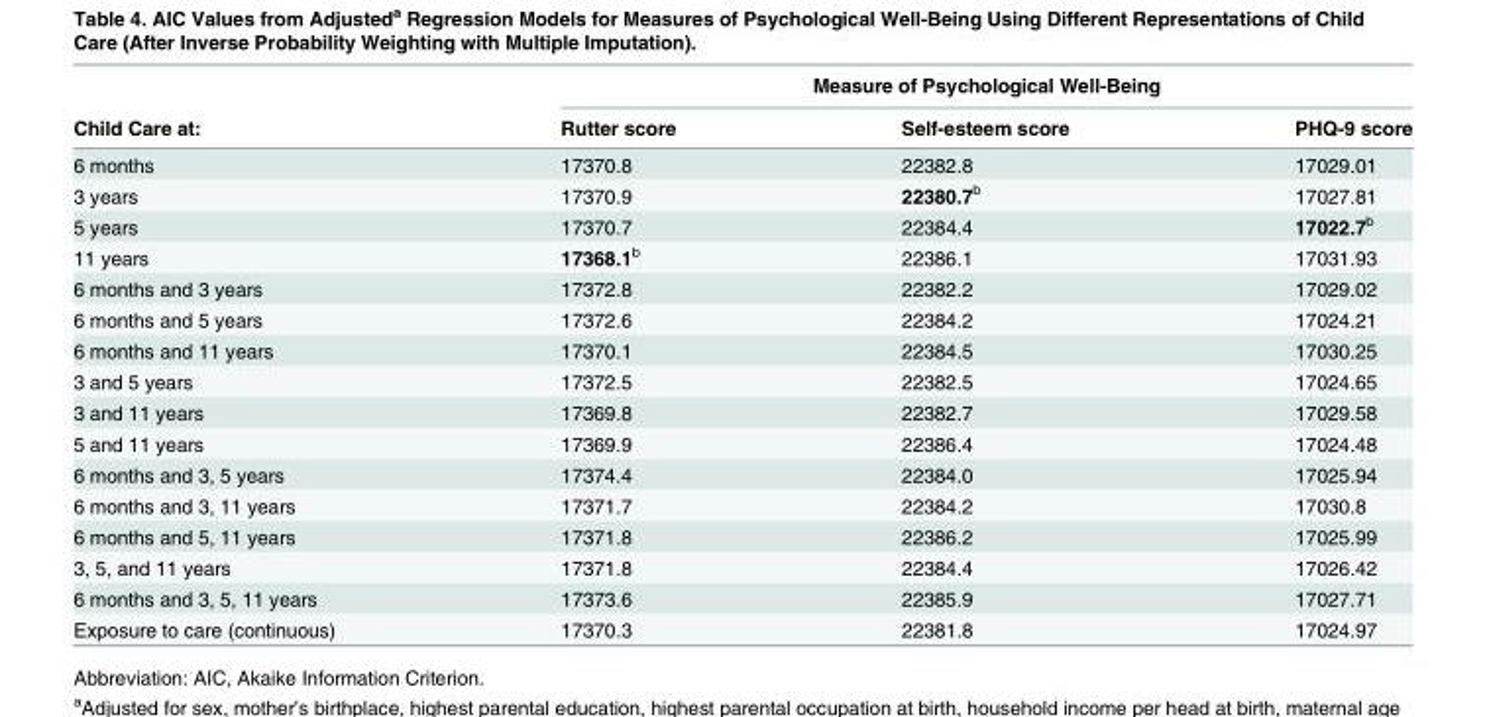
<table><thead><tr><td rowspan="2">Child Care at:</td><td colspan="3">Measure of Psychological Well-Being</td></tr><tr><td>Rutter score</td><td>Self-esteem score</td><td>PHQ-9 score</td></tr></thead><tbody><tr><td>6 months</td><td>17370.8</td><td>22382.8</td><td>17029.01</td></tr><tr><td>3 years</td><td>17370.9</td><td>22380.7<sup>b</sup></td><td>17027.81</td></tr><tr><td>5 years</td><td>17370.7</td><td>22384.4</td><td>17022.7<sup>b</sup></td></tr><tr><td>11 years</td><td>17368.1<sup>b</sup></td><td>22386.1</td><td>17031.93</td></tr><tr><td>6 months and 3 years</td><td>17372.8</td><td>22382.2</td><td>17029.02</td></tr><tr><td>6 months and 5 years</td><td>17372.6</td><td>22384.2</td><td>17024.21</td></tr><tr><td>6 months and 11 years</td><td>17370.1</td><td>22384.5</td><td>17030.25</td></tr><tr><td>3 and 5 years</td><td>17372.5</td><td>22382.5</td><td>17024.65</td></tr><tr><td>3 and 11 years</td><td>17369.8</td><td>22382.7</td><td>17029.58</td></tr><tr><td>5 and 11 years</td><td>17369.9</td><td>22386.4</td><td>17024.48</td></tr><tr><td>6 months and 3, 5 years</td><td>17374.4</td><td>22384.0</td><td>17025.94</td></tr><tr><td>6 months and 3, 11 years</td><td>17371.7</td><td>22384.2</td><td>17030.8</td></tr><tr><td>6 months and 5, 11 years</td><td>17371.8</td><td>22386.2</td><td>17025.99</td></tr><tr><td>3, 5, and 11 years</td><td>17371.8</td><td>22384.4</td><td>17026.42</td></tr><tr><td>6 months and 3, 5, 11 years</td><td>17373.6</td><td>22385.9</td><td>17027.71</td></tr><tr><td>Exposure to care (continuous)</td><td>17370.3</td><td>22381.8</td><td>17024.97</td></tr></tbody></table>